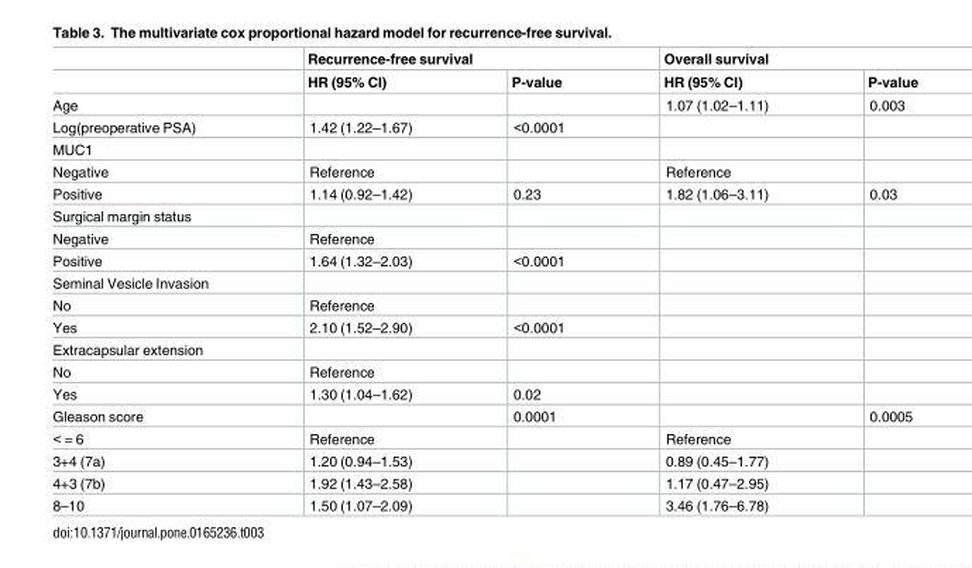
<table><thead><tr><td rowspan="2"></td><td colspan="2">Recurrence-free survival</td><td colspan="2">Overall survival</td></tr><tr><td>HR (95% CI)</td><td>P-value</td><td>HR (95% CI)</td><td>P-value</td></tr></thead><tbody><tr><td>Age</td><td></td><td></td><td>1.07 (1.02–1.11)</td><td>0.003</td></tr><tr><td>Log(preoperative PSA)</td><td>1.42 (1.22–1.67)</td><td>&lt;0.0001</td><td></td><td></td></tr><tr><td colspan="5">MUC1</td></tr><tr><td>Negative</td><td>Reference</td><td></td><td>Reference</td><td></td></tr><tr><td>Positive</td><td>1.14 (0.92–1.42)</td><td>0.23</td><td>1.82 (1.06–3.11)</td><td>0.03</td></tr><tr><td colspan="5">Surgical margin status</td></tr><tr><td>Negative</td><td>Reference</td><td></td><td></td><td></td></tr><tr><td>Positive</td><td>1.64 (1.32–2.03)</td><td>&lt;0.0001</td><td></td><td></td></tr><tr><td colspan="5">Seminal Vesicle Invasion</td></tr><tr><td>No</td><td>Reference</td><td></td><td></td><td></td></tr><tr><td>Yes</td><td>2.10 (1.52–2.90)</td><td>&lt;0.0001</td><td></td><td></td></tr><tr><td colspan="5">Extracapsular extension</td></tr><tr><td>No</td><td>Reference</td><td></td><td></td><td></td></tr><tr><td>Yes</td><td>1.30 (1.04–1.62)</td><td>0.02</td><td></td><td></td></tr><tr><td>Gleason score</td><td></td><td>0.0001</td><td></td><td>0.0005</td></tr><tr><td>&lt; = 6</td><td>Reference</td><td></td><td>Reference</td><td></td></tr><tr><td>3+4 (7a)</td><td>1.20 (0.94–1.53)</td><td></td><td>0.89 (0.45–1.77)</td><td></td></tr><tr><td>4+3 (7b)</td><td>1.92 (1.43–2.58)</td><td></td><td>1.17 (0.47–2.95)</td><td></td></tr><tr><td>8–10</td><td>1.50 (1.07–2.09)</td><td></td><td>3.46 (1.76–6.78)</td><td></td></tr></tbody></table>